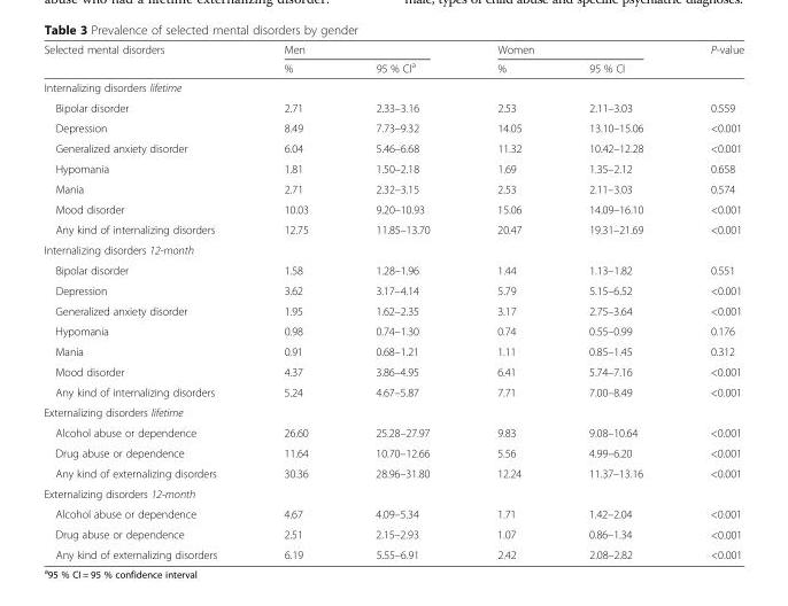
<table><thead><tr><td rowspan="2">Selected mental disorders</td><td colspan="2">Men</td><td colspan="2">Women</td><td rowspan="2">P-value</td></tr><tr><td>%</td><td>95 % CI<sup>a</sup></td><td>%</td><td>95 % CI</td></tr></thead><tbody><tr><td colspan="6">Internalizing disorders lifetime</td></tr><tr><td>Bipolar disorder</td><td>2.71</td><td>2.33–3.16</td><td>2.53</td><td>2.11–3.03</td><td>0.559</td></tr><tr><td>Depression</td><td>8.49</td><td>7.73–9.32</td><td>14.05</td><td>13.10–15.06</td><td>&lt;0.001</td></tr><tr><td>Generalized anxiety disorder</td><td>6.04</td><td>5.46–6.68</td><td>11.32</td><td>10.42–12.28</td><td>&lt;0.001</td></tr><tr><td>Hypomania</td><td>1.81</td><td>1.50–2.18</td><td>1.69</td><td>1.35–2.12</td><td>0.658</td></tr><tr><td>Mania</td><td>2.71</td><td>2.32–3.15</td><td>2.53</td><td>2.11–3.03</td><td>0.574</td></tr><tr><td>Mood disorder</td><td>10.03</td><td>9.20–10.93</td><td>15.06</td><td>14.09–16.10</td><td>&lt;0.001</td></tr><tr><td>Any kind of internalizing disorders</td><td>12.75</td><td>11.85–13.70</td><td>20.47</td><td>19.31–21.69</td><td>&lt;0.001</td></tr><tr><td colspan="6">Internalizing disorders 12-month</td></tr><tr><td>Bipolar disorder</td><td>1.58</td><td>1.28–1.96</td><td>1.44</td><td>1.13–1.82</td><td>0.551</td></tr><tr><td>Depression</td><td>3.62</td><td>3.17–4.14</td><td>5.79</td><td>5.15–6.52</td><td>&lt;0.001</td></tr><tr><td>Generalized anxiety disorder</td><td>1.95</td><td>1.62–2.35</td><td>3.17</td><td>2.75–3.64</td><td>&lt;0.001</td></tr><tr><td>Hypomania</td><td>0.98</td><td>0.74–1.30</td><td>0.74</td><td>0.55–0.99</td><td>0.176</td></tr><tr><td>Mania</td><td>0.91</td><td>0.68–1.21</td><td>1.11</td><td>0.85–1.45</td><td>0.312</td></tr><tr><td>Mood disorder</td><td>4.37</td><td>3.86–4.95</td><td>6.41</td><td>5.74–7.16</td><td>&lt;0.001</td></tr><tr><td>Any kind of internalizing disorders</td><td>5.24</td><td>4.67–5.87</td><td>7.71</td><td>7.00–8.49</td><td>&lt;0.001</td></tr><tr><td colspan="6">Externalizing disorders lifetime</td></tr><tr><td>Alcohol abuse or dependence</td><td>26.60</td><td>25.28–27.97</td><td>9.83</td><td>9.08–10.64</td><td>&lt;0.001</td></tr><tr><td>Drug abuse or dependence</td><td>11.64</td><td>10.70–12.66</td><td>5.56</td><td>4.99–6.20</td><td>&lt;0.001</td></tr><tr><td>Any kind of externalizing disorders</td><td>30.36</td><td>28.96–31.80</td><td>12.24</td><td>11.37–13.16</td><td>&lt;0.001</td></tr><tr><td colspan="6">Externalizing disorders 12-month</td></tr><tr><td>Alcohol abuse or dependence</td><td>4.67</td><td>4.09–5.34</td><td>1.71</td><td>1.42–2.04</td><td>&lt;0.001</td></tr><tr><td>Drug abuse or dependence</td><td>2.51</td><td>2.15–2.93</td><td>1.07</td><td>0.86–1.34</td><td>&lt;0.001</td></tr><tr><td>Any kind of externalizing disorders</td><td>6.19</td><td>5.55–6.91</td><td>2.42</td><td>2.08–2.82</td><td>&lt;0.001</td></tr></tbody></table>